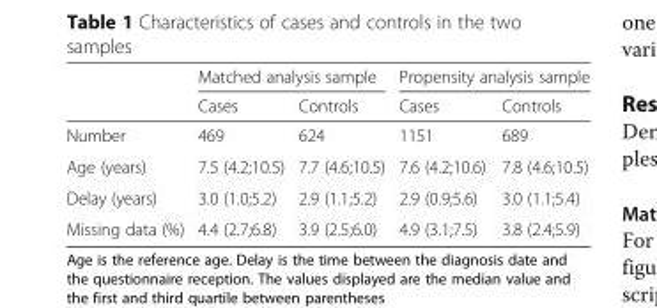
<table><thead><tr><td rowspan="2"></td><td colspan="2">Matched analysis sample</td><td colspan="2">Propensity analysis sample</td></tr><tr><td>Cases</td><td>Controls</td><td>Cases</td><td>Controls</td></tr></thead><tbody><tr><td>Number</td><td>469</td><td>624</td><td>1151</td><td>689</td></tr><tr><td>Age (years)</td><td>7.5 (4.2;10.5)</td><td>7.7 (4.6;10.5)</td><td>7.6 (4.2;10.6)</td><td>7.8 (4.6;10.5)</td></tr><tr><td>Delay (years)</td><td>3.0 (1.0;5.2)</td><td>2.9 (1.1;5.2)</td><td>2.9 (0.9;5.6)</td><td>3.0 (1.1;5.4)</td></tr><tr><td>Missing data (%)</td><td>4.4 (2.7;6.8)</td><td>3.9 (2.5;6.0)</td><td>4.9 (3.1;7.5)</td><td>3.8 (2.4;5.9)</td></tr></tbody></table>